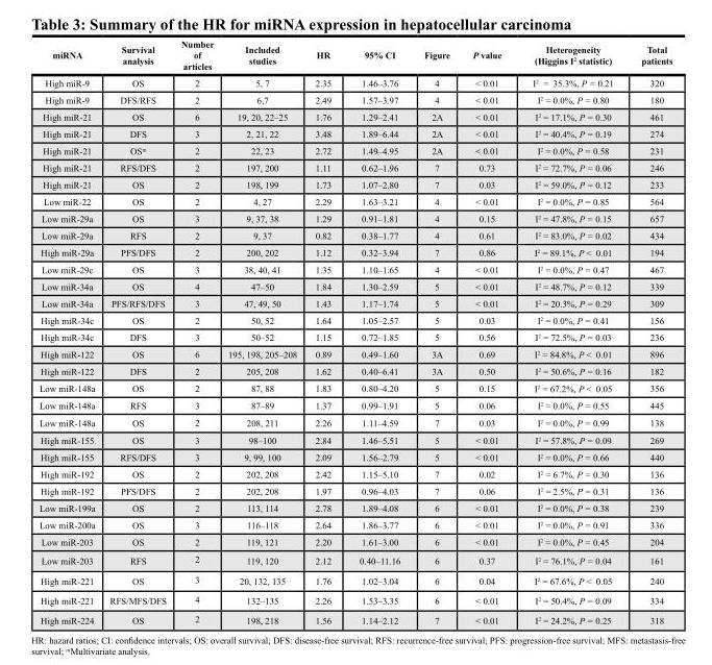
<table><thead><tr><td>miRNA</td><td>Survival analysis</td><td>Number of articles</td><td>Included studies</td><td>HR</td><td>95% CI</td><td>Figure</td><td>P value</td><td>Heterogeneity (Higgins I<sup>2</sup> statistic)</td><td>Total patients</td></tr></thead><tbody><tr><td>High miR-9</td><td>OS</td><td>2</td><td>5, 7</td><td>2.35</td><td>1.46–3.76</td><td>4</td><td>&lt; 0.01</td><td>I<sup>2</sup> = 35.3%, P = 0.21</td><td>320</td></tr><tr><td>High miR-9</td><td>DFS/RFS</td><td>2</td><td>6,7</td><td>2.49</td><td>1.57–3.97</td><td>4</td><td>&lt; 0.01</td><td>I<sup>2</sup> = 0.0%, P = 0.80</td><td>180</td></tr><tr><td>High miR-21</td><td>OS</td><td>6</td><td>19, 20, 22–25</td><td>1.76</td><td>1.29–2.41</td><td>2A</td><td>&lt; 0.01</td><td>I<sup>2</sup> = 17.1%, P = 0.30</td><td>461</td></tr><tr><td>High miR-21</td><td>DFS</td><td>3</td><td>2, 21, 22</td><td>3.48</td><td>1.89–6.44</td><td>2A</td><td>&lt; 0.01</td><td>I<sup>2</sup> = 40.4%, P = 0.19</td><td>274</td></tr><tr><td>High miR-21</td><td>OS<sup>m</sup></td><td>2</td><td>22, 23</td><td>2.72</td><td>1.49–4.95</td><td>2A</td><td>&lt; 0.01</td><td>I<sup>2</sup> = 0.0%, P = 0.58</td><td>231</td></tr><tr><td>High miR-21</td><td>RFS/DFS</td><td>2</td><td>197, 200</td><td>1.11</td><td>0.62–1.96</td><td>7</td><td>0.73</td><td>I<sup>2</sup> = 72.7%, P = 0.06</td><td>246</td></tr><tr><td>High miR-21</td><td>OS</td><td>2</td><td>198, 199</td><td>1.73</td><td>1.07–2.80</td><td>7</td><td>0.03</td><td>I<sup>2</sup> = 59.0%, P = 0.12</td><td>233</td></tr><tr><td>Low miR-22</td><td>OS</td><td>2</td><td>4, 27</td><td>2.29</td><td>1.63–3.21</td><td>4</td><td>&lt; 0.01</td><td>I<sup>2</sup> = 0.0%, P = 0.85</td><td>564</td></tr><tr><td>Low miR-29a</td><td>OS</td><td>3</td><td>9, 37, 38</td><td>1.29</td><td>0.91–1.81</td><td>4</td><td>0.15</td><td>I<sup>2</sup> = 47.8%, P = 0.15</td><td>657</td></tr><tr><td>Low miR-29a</td><td>RFS</td><td>2</td><td>9, 37</td><td>0.82</td><td>0.38–1.77</td><td>4</td><td>0.61</td><td>I<sup>2</sup> = 83.0%, P = 0.02</td><td>434</td></tr><tr><td>High miR-29a</td><td>PFS/DFS</td><td>2</td><td>200, 202</td><td>1.12</td><td>0.32–3.94</td><td>7</td><td>0.86</td><td>I<sup>2</sup> = 89.1%, P &lt; 0.01</td><td>194</td></tr><tr><td>Low miR-29c</td><td>OS</td><td>3</td><td>38, 40, 41</td><td>1.35</td><td>1.10–1.65</td><td>4</td><td>&lt; 0.01</td><td>I<sup>2</sup> = 0.0%, P = 0.47</td><td>467</td></tr><tr><td>Low miR-34a</td><td>OS</td><td>4</td><td>47–50</td><td>1.84</td><td>1.30–2.59</td><td>5</td><td>&lt; 0.01</td><td>I<sup>2</sup> = 48.7%, P = 0.12</td><td>339</td></tr><tr><td>Low miR-34a</td><td>PFS/RFS/DFS</td><td>3</td><td>47, 49, 50</td><td>1.43</td><td>1.17–1.74</td><td>5</td><td>&lt; 0.01</td><td>I<sup>2</sup> = 20.3%, P = 0.29</td><td>309</td></tr><tr><td>High miR-34c</td><td>OS</td><td>2</td><td>50, 52</td><td>1.64</td><td>1.05–2.57</td><td>5</td><td>0.03</td><td>I<sup>2</sup> = 0.0%, P = 0.41</td><td>156</td></tr><tr><td>High miR-34c</td><td>DFS</td><td>3</td><td>50–52</td><td>1.15</td><td>0.72–1.85</td><td>5</td><td>0.56</td><td>I<sup>2</sup> = 72.5%, P = 0.03</td><td>236</td></tr><tr><td>High miR-122</td><td>OS</td><td>6</td><td>195, 198, 205–208</td><td>0.89</td><td>0.49–1.60</td><td>3A</td><td>0.69</td><td>I<sup>2</sup> = 84.8%, P &lt; 0.01</td><td>896</td></tr><tr><td>High miR-122</td><td>DFS</td><td>2</td><td>205, 208</td><td>1.62</td><td>0.40–6.41</td><td>3A</td><td>0.50</td><td>I<sup>2</sup> = 50.6%, P = 0.16</td><td>182</td></tr><tr><td>Low miR-148a</td><td>OS</td><td>2</td><td>87, 88</td><td>1.83</td><td>0.80–4.20</td><td>5</td><td>0.15</td><td>I<sup>2</sup> = 67.2%, P &lt; 0.05</td><td>356</td></tr><tr><td>Low miR-148a</td><td>RFS</td><td>3</td><td>87–89</td><td>1.37</td><td>0.99–1.91</td><td>5</td><td>0.06</td><td>I<sup>2</sup> = 0.0%, P = 0.55</td><td>445</td></tr><tr><td>Low miR-148a</td><td>OS</td><td>2</td><td>208, 211</td><td>2.26</td><td>1.11–4.59</td><td>7</td><td>0.03</td><td>I<sup>2</sup> = 0.0%, P = 0.99</td><td>138</td></tr><tr><td>High miR-155</td><td>OS</td><td>3</td><td>98–100</td><td>2.84</td><td>1.46–5.51</td><td>5</td><td>&lt; 0.01</td><td>I<sup>2</sup> = 57.8%, P = 0.09</td><td>269</td></tr><tr><td>High miR-155</td><td>RFS/DFS</td><td>3</td><td>9, 99, 100</td><td>2.09</td><td>1.56–2.79</td><td>5</td><td>&lt; 0.01</td><td>I<sup>2</sup> = 0.0%, P = 0.66</td><td>440</td></tr><tr><td>High miR-192</td><td>OS</td><td>2</td><td>202, 208</td><td>2.42</td><td>1.15–5.10</td><td>7</td><td>0.02</td><td>I<sup>2</sup> = 6.7%, P = 0.30</td><td>136</td></tr><tr><td>High miR-192</td><td>PFS/DFS</td><td>2</td><td>202, 208</td><td>1.97</td><td>0.96–4.03</td><td>7</td><td>0.06</td><td>I<sup>2</sup> = 2.5%, P = 0.31</td><td>136</td></tr><tr><td>Low miR-199a</td><td>OS</td><td>2</td><td>113, 114</td><td>2.78</td><td>1.89–4.08</td><td>6</td><td>&lt; 0.01</td><td>I<sup>2</sup> = 0.0%, P = 0.38</td><td>239</td></tr><tr><td>Low miR-200a</td><td>OS</td><td>3</td><td>116–118</td><td>2.64</td><td>1.86–3.77</td><td>6</td><td>&lt; 0.01</td><td>I<sup>2</sup> = 0.0%, P = 0.91</td><td>336</td></tr><tr><td>Low miR-203</td><td>OS</td><td>2</td><td>119, 121</td><td>2.20</td><td>1.61–3.00</td><td>6</td><td>&lt; 0.01</td><td>I<sup>2</sup> = 0.0%, P = 0.45</td><td>204</td></tr><tr><td>Low miR-203</td><td>RFS</td><td>2</td><td>119, 120</td><td>2.12</td><td>0.40–11.16</td><td>6</td><td>0.37</td><td>I<sup>2</sup> = 76.1%, P = 0.04</td><td>161</td></tr><tr><td>High miR-221</td><td>OS</td><td>3</td><td>20, 132, 135</td><td>1.76</td><td>1.02–3.04</td><td>6</td><td>0.04</td><td>I<sup>2</sup> = 67.6%, P &lt; 0.05</td><td>240</td></tr><tr><td>High miR-221</td><td>RFS/MFS/DFS</td><td>4</td><td>132–135</td><td>2.26</td><td>1.53–3.35</td><td>6</td><td>&lt; 0.01</td><td>I<sup>2</sup> = 50.4%, P = 0.09</td><td>334</td></tr><tr><td>High miR-224</td><td>OS</td><td>2</td><td>198, 218</td><td>1.56</td><td>1.14–2.12</td><td>7</td><td>&lt; 0.01</td><td>I<sup>2</sup> = 24.2%, P = 0.25</td><td>318</td></tr></tbody></table>